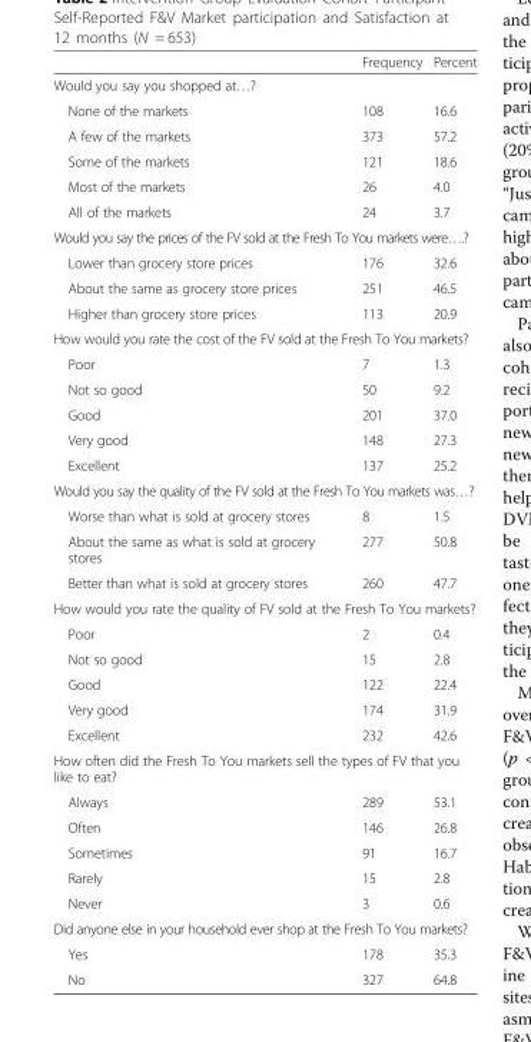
<table><thead><tr><td></td><td>Frequency</td><td>Percent</td></tr></thead><tbody><tr><td colspan="3">Would you say you shopped at…?</td></tr><tr><td>None of the markets</td><td>108</td><td>16.6</td></tr><tr><td>A few of the markets</td><td>373</td><td>57.2</td></tr><tr><td>Some of the markets</td><td>121</td><td>18.6</td></tr><tr><td>Most of the markets</td><td>26</td><td>4.0</td></tr><tr><td>All of the markets</td><td>24</td><td>3.7</td></tr><tr><td colspan="3">Would you say the prices of the FV sold at the Fresh To You markets were….?</td></tr><tr><td>Lower than grocery store prices</td><td>176</td><td>32.6</td></tr><tr><td>About the same as grocery store prices</td><td>251</td><td>46.5</td></tr><tr><td>Higher than grocery store prices</td><td>113</td><td>20.9</td></tr><tr><td colspan="3">How would you rate the cost of the FV sold at the Fresh To You markets?</td></tr><tr><td>Poor</td><td>7</td><td>1.3</td></tr><tr><td>Not so good</td><td>50</td><td>9.2</td></tr><tr><td>Good</td><td>201</td><td>37.0</td></tr><tr><td>Very good</td><td>148</td><td>27.3</td></tr><tr><td>Excellent</td><td>137</td><td>25.2</td></tr><tr><td colspan="3">Would you say the quality of the FV sold at the Fresh To You markets was…?</td></tr><tr><td>Worse than what is sold at grocery stores</td><td>8</td><td>1.5</td></tr><tr><td>About the same as what is sold at grocery stores</td><td>277</td><td>50.8</td></tr><tr><td>Better than what is sold at grocery stores</td><td>260</td><td>47.7</td></tr><tr><td colspan="3">How would you rate the quality of FV sold at the Fresh To You markets?</td></tr><tr><td>Poor</td><td>2</td><td>0.4</td></tr><tr><td>Not so good</td><td>15</td><td>2.8</td></tr><tr><td>Good</td><td>122</td><td>22.4</td></tr><tr><td>Very good</td><td>174</td><td>31.9</td></tr><tr><td>Excellent</td><td>232</td><td>42.6</td></tr><tr><td colspan="3">How often did the Fresh To You markets sell the types of FV that you like to eat?</td></tr><tr><td>Always</td><td>289</td><td>53.1</td></tr><tr><td>Often</td><td>146</td><td>26.8</td></tr><tr><td>Sometimes</td><td>91</td><td>16.7</td></tr><tr><td>Rarely</td><td>15</td><td>2.8</td></tr><tr><td>Never</td><td>3</td><td>0.6</td></tr><tr><td colspan="3">Did anyone else in your household ever shop at the Fresh To You markets?</td></tr><tr><td>Yes</td><td>178</td><td>35.3</td></tr><tr><td>No</td><td>327</td><td>64.8</td></tr></tbody></table>